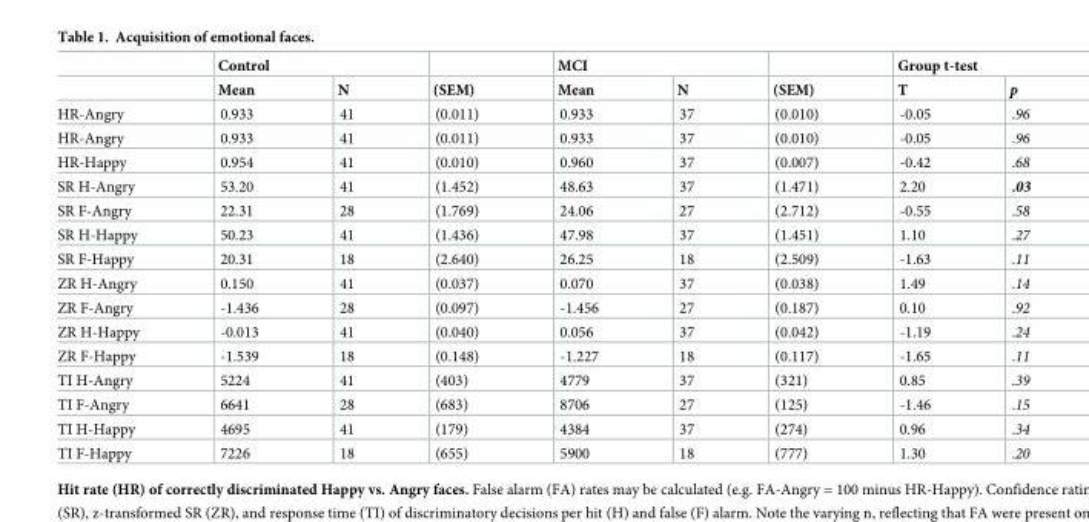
<table><thead><tr><td rowspan="2"></td><td colspan="2">Control</td><td rowspan="2">(SEM)</td><td colspan="2">MCI</td><td rowspan="2">(SEM)</td><td colspan="2">Group t-test</td></tr><tr><td>Mean</td><td>N</td><td>Mean</td><td>N</td><td>T</td><td>p</td></tr></thead><tbody><tr><td>HR-Angry</td><td>0.933</td><td>41</td><td>(0.011)</td><td>0.933</td><td>37</td><td>(0.010)</td><td>-0.05</td><td>.96</td></tr><tr><td>HR-Angry</td><td>0.933</td><td>41</td><td>(0.011)</td><td>0.933</td><td>37</td><td>(0.010)</td><td>-0.05</td><td>.96</td></tr><tr><td>HR-Happy</td><td>0.954</td><td>41</td><td>(0.010)</td><td>0.960</td><td>37</td><td>(0.007)</td><td>-0.42</td><td>.68</td></tr><tr><td>SR H-Angry</td><td>53.20</td><td>41</td><td>(1.452)</td><td>48.63</td><td>37</td><td>(1.471)</td><td>2.20</td><td>.03</td></tr><tr><td>SR F-Angry</td><td>22.31</td><td>28</td><td>(1.769)</td><td>24.06</td><td>27</td><td>(2.712)</td><td>-0.55</td><td>.58</td></tr><tr><td>SR H-Happy</td><td>50.23</td><td>41</td><td>(1.436)</td><td>47.98</td><td>37</td><td>(1.451)</td><td>1.10</td><td>.27</td></tr><tr><td>SR F-Happy</td><td>20.31</td><td>18</td><td>(2.640)</td><td>26.25</td><td>18</td><td>(2.509)</td><td>-1.63</td><td>.11</td></tr><tr><td>ZR H-Angry</td><td>0.150</td><td>41</td><td>(0.037)</td><td>0.070</td><td>37</td><td>(0.038)</td><td>1.49</td><td>.14</td></tr><tr><td>ZR F-Angry</td><td>-1.436</td><td>28</td><td>(0.097)</td><td>-1.456</td><td>27</td><td>(0.187)</td><td>0.10</td><td>.92</td></tr><tr><td>ZR H-Happy</td><td>-0.013</td><td>41</td><td>(0.040)</td><td>0.056</td><td>37</td><td>(0.042)</td><td>-1.19</td><td>.24</td></tr><tr><td>ZR F-Happy</td><td>-1.539</td><td>18</td><td>(0.148)</td><td>-1.227</td><td>18</td><td>(0.117)</td><td>-1.65</td><td>.11</td></tr><tr><td>TI H-Angry</td><td>5224</td><td>41</td><td>(403)</td><td>4779</td><td>37</td><td>(321)</td><td>0.85</td><td>.39</td></tr><tr><td>TI F-Angry</td><td>6641</td><td>28</td><td>(683)</td><td>8706</td><td>27</td><td>(125)</td><td>-1.46</td><td>.15</td></tr><tr><td>TI H-Happy</td><td>4695</td><td>41</td><td>(179)</td><td>4384</td><td>37</td><td>(274)</td><td>0.96</td><td>.34</td></tr><tr><td>TI F-Happy</td><td>7226</td><td>18</td><td>(655)</td><td>5900</td><td>18</td><td>(777)</td><td>1.30</td><td>.20</td></tr></tbody></table>